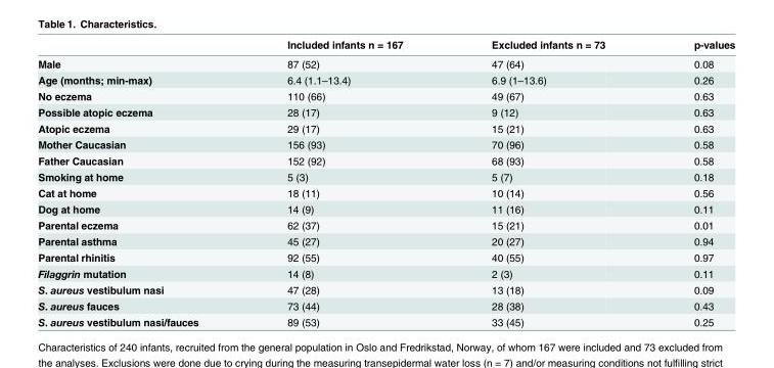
<table><thead><tr><td></td><td>Included infants n = 167</td><td>Excluded infants n = 73</td><td>p-values</td></tr></thead><tbody><tr><td>Male</td><td>87 (52)</td><td>47 (64)</td><td>0.08</td></tr><tr><td>Age (months; min-max)</td><td>6.4 (1.1–13.4)</td><td>6.9 (1–13.6)</td><td>0.26</td></tr><tr><td>No eczema</td><td>110 (66)</td><td>49 (67)</td><td>0.63</td></tr><tr><td>Possible atopic eczema</td><td>28 (17)</td><td>9 (12)</td><td>0.63</td></tr><tr><td>Atopic eczema</td><td>29 (17)</td><td>15 (21)</td><td>0.63</td></tr><tr><td>Mother Caucasian</td><td>156 (93)</td><td>70 (96)</td><td>0.58</td></tr><tr><td>Father Caucasian</td><td>152 (92)</td><td>68 (93)</td><td>0.58</td></tr><tr><td>Smoking at home</td><td>5 (3)</td><td>5 (7)</td><td>0.18</td></tr><tr><td>Cat at home</td><td>18 (11)</td><td>10 (14)</td><td>0.56</td></tr><tr><td>Dog at home</td><td>14 (9)</td><td>11 (16)</td><td>0.11</td></tr><tr><td>Parental eczema</td><td>62 (37)</td><td>15 (21)</td><td>0.01</td></tr><tr><td>Parental asthma</td><td>45 (27)</td><td>20 (27)</td><td>0.94</td></tr><tr><td>Parental rhinitis</td><td>92 (55)</td><td>40 (55)</td><td>0.97</td></tr><tr><td>Filaggrin mutation</td><td>14 (8)</td><td>2 (3)</td><td>0.11</td></tr><tr><td>S. aureus vestibulum nasi</td><td>47 (28)</td><td>13 (18)</td><td>0.09</td></tr><tr><td>S. aureus fauces</td><td>73 (44)</td><td>28 (38)</td><td>0.43</td></tr><tr><td>S. aureus vestibulum nasi/fauces</td><td>89 (53)</td><td>33 (45)</td><td>0.25</td></tr></tbody></table>